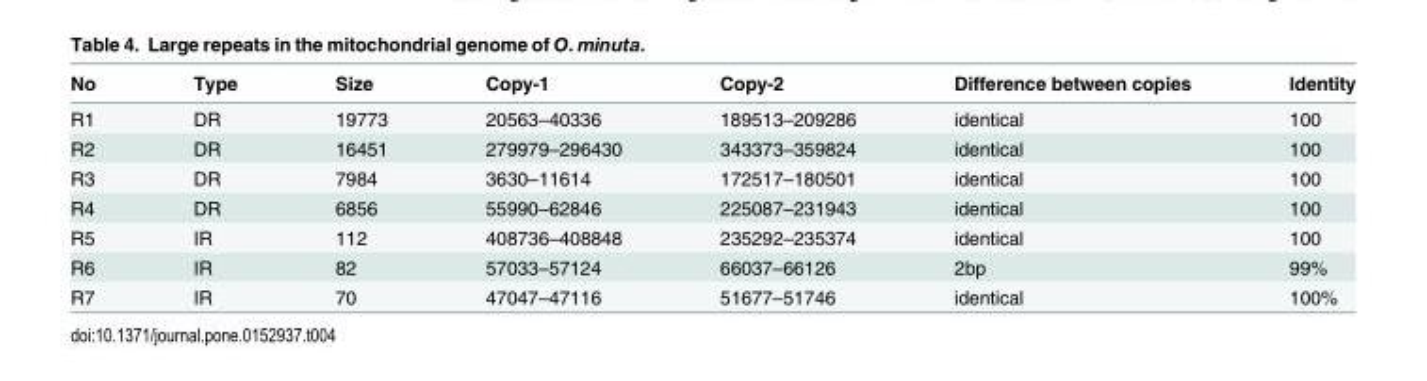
<table><thead><tr><td>No</td><td>Type</td><td>Size</td><td>Copy-1</td><td>Copy-2</td><td>Difference between copies</td><td>Identity</td></tr></thead><tbody><tr><td>R1</td><td>DR</td><td>19773</td><td>20563–40336</td><td>189513–209286</td><td>identical</td><td>100</td></tr><tr><td>R2</td><td>DR</td><td>16451</td><td>279979–296430</td><td>343373–359824</td><td>identical</td><td>100</td></tr><tr><td>R3</td><td>DR</td><td>7984</td><td>3630–11614</td><td>172517–180501</td><td>identical</td><td>100</td></tr><tr><td>R4</td><td>DR</td><td>6856</td><td>55990–62846</td><td>225087–231943</td><td>identical</td><td>100</td></tr><tr><td>R5</td><td>IR</td><td>112</td><td>408736–408848</td><td>235292–235374</td><td>identical</td><td>100</td></tr><tr><td>R6</td><td>IR</td><td>82</td><td>57033–57124</td><td>66037–66126</td><td>2bp</td><td>99%</td></tr><tr><td>R7</td><td>IR</td><td>70</td><td>47047–47116</td><td>51677–51746</td><td>identical</td><td>100%</td></tr></tbody></table>